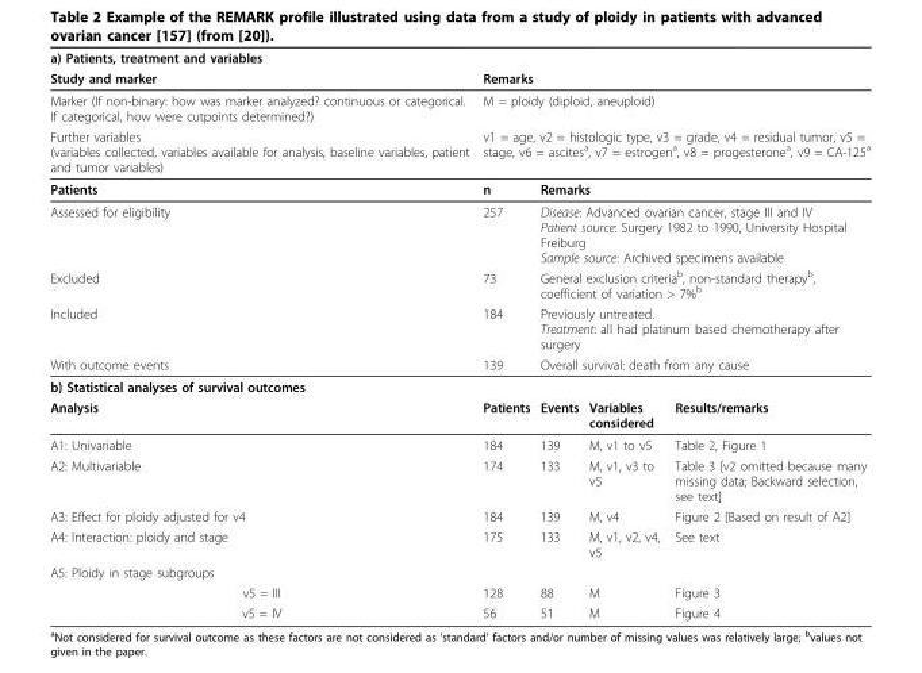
<table><thead><tr><td colspan="5">a) Patients, treatment and variables</td></tr><tr><td>Study and marker</td><td colspan="4">Remarks</td></tr></thead><tbody><tr><td>Marker (If non-binary: how was marker analyzed? continuous or categorical. If categorical, how were cutpoints determined?)</td><td colspan="4">M = ploidy (diploid, aneuploid)</td></tr><tr><td>Further variables (variables collected, variables available for analysis, baseline variables, patient and tumor variables)</td><td colspan="4">v1 = age, v2 = histologic type, v3 = grade, v4 = residual tumor, v5 = stage, v6 = ascites<sup>a</sup>, v7 = estrogen<sup>a</sup>, v8 = progesterone<sup>a</sup>, v9 = CA-125<sup>a</sup></td></tr><tr><td>Patients</td><td>n</td><td colspan="3">Remarks</td></tr><tr><td>Assessed for eligibility</td><td>257</td><td colspan="3">Disease: Advanced ovarian cancer, stage III and IV Patient source: Surgery 1982 to 1990, University Hospital Freiburg Sample source: Archived specimens available</td></tr><tr><td>Excluded</td><td>73</td><td colspan="3">General exclusion criteria<sup>b</sup>, non-standard therapy<sup>b</sup>, coefficient of variation &gt; 7%<sup>b</sup></td></tr><tr><td>Included</td><td>184</td><td colspan="3">Previously untreated. Treatment: all had platinum based chemotherapy after surgery</td></tr><tr><td>With outcome events</td><td>139</td><td colspan="3">Overall survival: death from any cause</td></tr><tr><td colspan="5">b) Statistical analyses of survival outcomes</td></tr><tr><td>Analysis</td><td>Patients</td><td>Events</td><td>Variables considered</td><td>Results/remarks</td></tr><tr><td>A1: Univariable</td><td>184</td><td>139</td><td>M, v1 to v5</td><td>Table 2, Figure 1</td></tr><tr><td>A2: Multivariable</td><td>174</td><td>133</td><td>M, v1, v3 to v5</td><td>Table 3 [v2 omitted because many missing data; Backward selection, see text]</td></tr><tr><td>A3: Effect for ploidy adjusted for v4</td><td>184</td><td>139</td><td>M, v4</td><td>Figure 2 [Based on result of A2]</td></tr><tr><td>A4: Interaction: ploidy and stage</td><td>175</td><td>133</td><td>M, v1, v2, v4, v5</td><td>See text</td></tr><tr><td colspan="5">A5: Ploidy in stage subgroups</td></tr><tr><td>v5 = III</td><td>128</td><td>88</td><td>M</td><td>Figure 3</td></tr><tr><td>v5 = IV</td><td>56</td><td>51</td><td>M</td><td>Figure 4</td></tr></tbody></table>